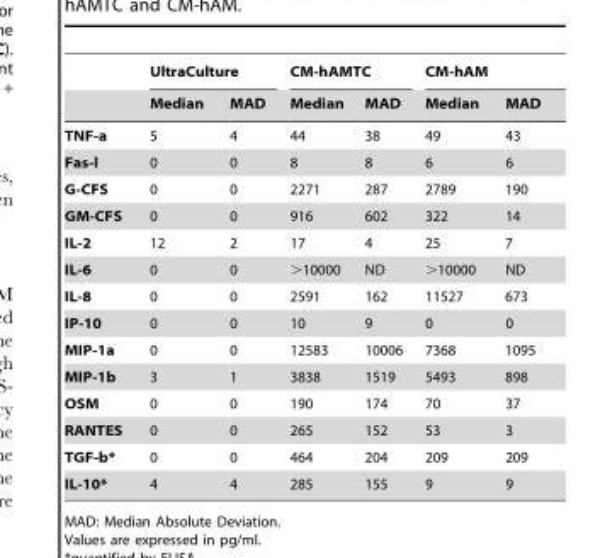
<table><thead><tr><td rowspan="2"></td><td colspan="2">UltraCulture</td><td colspan="2">CM-hAMTC</td><td colspan="2">CM-hAM</td></tr><tr><td>Median</td><td>MAD</td><td>Median</td><td>MAD</td><td>Median</td><td>MAD</td></tr></thead><tbody><tr><td>TNF-a</td><td>5</td><td>4</td><td>44</td><td>38</td><td>49</td><td>43</td></tr><tr><td>Fas-l</td><td>0</td><td>0</td><td>8</td><td>8</td><td>6</td><td>6</td></tr><tr><td>G-CFS</td><td>0</td><td>0</td><td>2271</td><td>287</td><td>2789</td><td>190</td></tr><tr><td>GM-CFS</td><td>0</td><td>0</td><td>916</td><td>602</td><td>322</td><td>14</td></tr><tr><td>IL-2</td><td>12</td><td>2</td><td>17</td><td>4</td><td>25</td><td>7</td></tr><tr><td>IL-6</td><td>0</td><td>0</td><td>&gt;10000</td><td>ND</td><td>&gt;10000</td><td>ND</td></tr><tr><td>IL-8</td><td>0</td><td>0</td><td>2591</td><td>162</td><td>11527</td><td>673</td></tr><tr><td>IP-10</td><td>0</td><td>0</td><td>10</td><td>9</td><td>0</td><td>0</td></tr><tr><td>MIP-1a</td><td>0</td><td>0</td><td>12583</td><td>10006</td><td>7368</td><td>1095</td></tr><tr><td>MIP-1b</td><td>3</td><td>1</td><td>3838</td><td>1519</td><td>5493</td><td>898</td></tr><tr><td>OSM</td><td>0</td><td>0</td><td>190</td><td>174</td><td>70</td><td>37</td></tr><tr><td>RANTES</td><td>0</td><td>0</td><td>265</td><td>152</td><td>53</td><td>3</td></tr><tr><td>TGF-b*</td><td>0</td><td>0</td><td>464</td><td>204</td><td>209</td><td>209</td></tr><tr><td>IL-10*</td><td>4</td><td>4</td><td>285</td><td>155</td><td>9</td><td>9</td></tr></tbody></table>